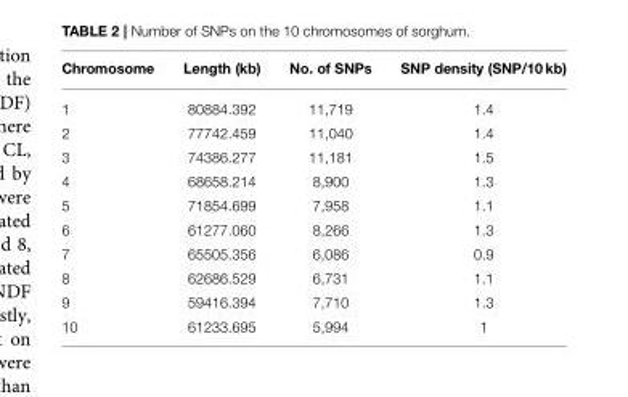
<table><thead><tr><td>Chromosome</td><td>Length (kb)</td><td>No. of SNPs</td><td>SNP density (SNP/10 kb)</td></tr></thead><tbody><tr><td>1</td><td>80884.392</td><td>11,719</td><td>1.4</td></tr><tr><td>2</td><td>77742.459</td><td>11,040</td><td>1.4</td></tr><tr><td>3</td><td>74386.277</td><td>11,181</td><td>1.5</td></tr><tr><td>4</td><td>68658.214</td><td>8,900</td><td>1.3</td></tr><tr><td>5</td><td>71854.699</td><td>7,958</td><td>1.1</td></tr><tr><td>6</td><td>61277.060</td><td>8,266</td><td>1.3</td></tr><tr><td>7</td><td>65505.356</td><td>6,086</td><td>0.9</td></tr><tr><td>8</td><td>62686.529</td><td>6,731</td><td>1.1</td></tr><tr><td>9</td><td>59416.394</td><td>7,710</td><td>1.3</td></tr><tr><td>10</td><td>61233.695</td><td>5,994</td><td>1</td></tr></tbody></table>